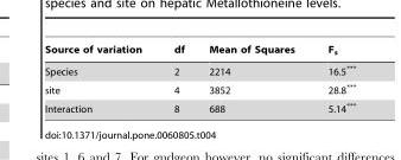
<table><thead><tr><td>Source of variation</td><td>df</td><td>Mean of Squares</td><td>F<sub>s</sub></td></tr></thead><tbody><tr><td>Species</td><td>2</td><td>2214</td><td>16.5***</td></tr><tr><td>site</td><td>4</td><td>3852</td><td>28.8***</td></tr><tr><td>Interaction</td><td>8</td><td>688</td><td>5.14***</td></tr></tbody></table>